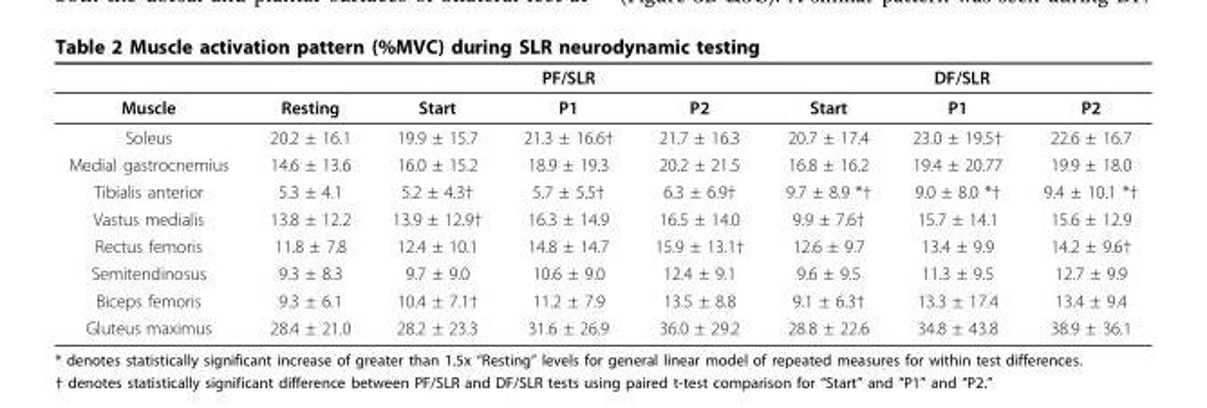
<table><thead><tr><td rowspan="2">Muscle</td><td rowspan="2">Resting</td><td colspan="3">PF/SLR</td><td colspan="3">DF/SLR</td></tr><tr><td>Start</td><td>P1</td><td>P2</td><td>Start</td><td>P1</td><td>P2</td></tr></thead><tbody><tr><td>Soleus</td><td>20.2 ± 16.1</td><td>19.9 ± 15.7</td><td>21.3 ± 16.6†</td><td>21.7 ± 16.3</td><td>20.7 ± 17.4</td><td>23.0 ± 19.5†</td><td>22.6 ± 16.7</td></tr><tr><td>Medial gastrocnemius</td><td>14.6 ± 13.6</td><td>16.0 ± 15.2</td><td>18.9 ± 19.3</td><td>20.2 ± 21.5</td><td>16.8 ± 16.2</td><td>19.4 ± 20.77</td><td>19.9 ± 18.0</td></tr><tr><td>Tibialis anterior</td><td>5.3 ± 4.1</td><td>5.2 ± 4.3†</td><td>5.7 ± 5.5†</td><td>6.3 ± 6.9†</td><td>9.7 ± 8.9 *†</td><td>9.0 ± 8.0 *†</td><td>9.4 ± 10.1 *†</td></tr><tr><td>Vastus medialis</td><td>13.8 ± 12.2</td><td>13.9 ± 12.9†</td><td>16.3 ± 14.9</td><td>16.5 ± 14.0</td><td>9.9 ± 7.6†</td><td>15.7 ± 14.1</td><td>15.6 ± 12.9</td></tr><tr><td>Rectus femoris</td><td>11.8 ± 7.8</td><td>12.4 ± 10.1</td><td>14.8 ± 14.7</td><td>15.9 ± 13.1†</td><td>12.6 ± 9.7</td><td>13.4 ± 9.9</td><td>14.2 ± 9.6†</td></tr><tr><td>Semitendinosus</td><td>9.3 ± 8.3</td><td>9.7 ± 9.0</td><td>10.6 ± 9.0</td><td>12.4 ± 9.1</td><td>9.6 ± 9.5</td><td>11.3 ± 9.5</td><td>12.7 ± 9.9</td></tr><tr><td>Biceps femoris</td><td>9.3 ± 6.1</td><td>10.4 ± 7.1†</td><td>11.2 ± 7.9</td><td>13.5 ± 8.8</td><td>9.1 ± 6.3†</td><td>13.3 ± 17.4</td><td>13.4 ± 9.4</td></tr><tr><td>Gluteus maximus</td><td>28.4 ± 21.0</td><td>28.2 ± 23.3</td><td>31.6 ± 26.9</td><td>36.0 ± 29.2</td><td>28.8 ± 22.6</td><td>34.8 ± 43.8</td><td>38.9 ± 36.1</td></tr></tbody></table>